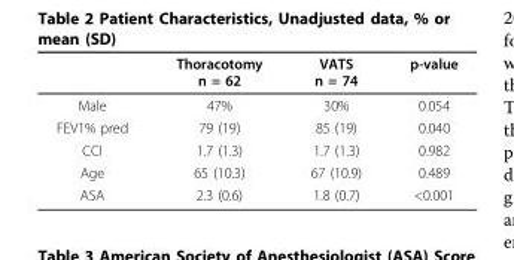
<table><thead><tr><td></td><td>Thoracotomy n = 62</td><td>VATS n = 74</td><td>p-value</td></tr></thead><tbody><tr><td>Male</td><td>47%</td><td>30%</td><td>0.054</td></tr><tr><td>FEV1% pred</td><td>79 (19)</td><td>85 (19)</td><td>0.040</td></tr><tr><td>CCI</td><td>1.7 (1.3)</td><td>1.7 (1.3)</td><td>0.982</td></tr><tr><td>Age</td><td>65 (10.3)</td><td>67 (10.9)</td><td>0.489</td></tr><tr><td>ASA</td><td>2.3 (0.6)</td><td>1.8 (0.7)</td><td>&lt;0.001</td></tr></tbody></table>